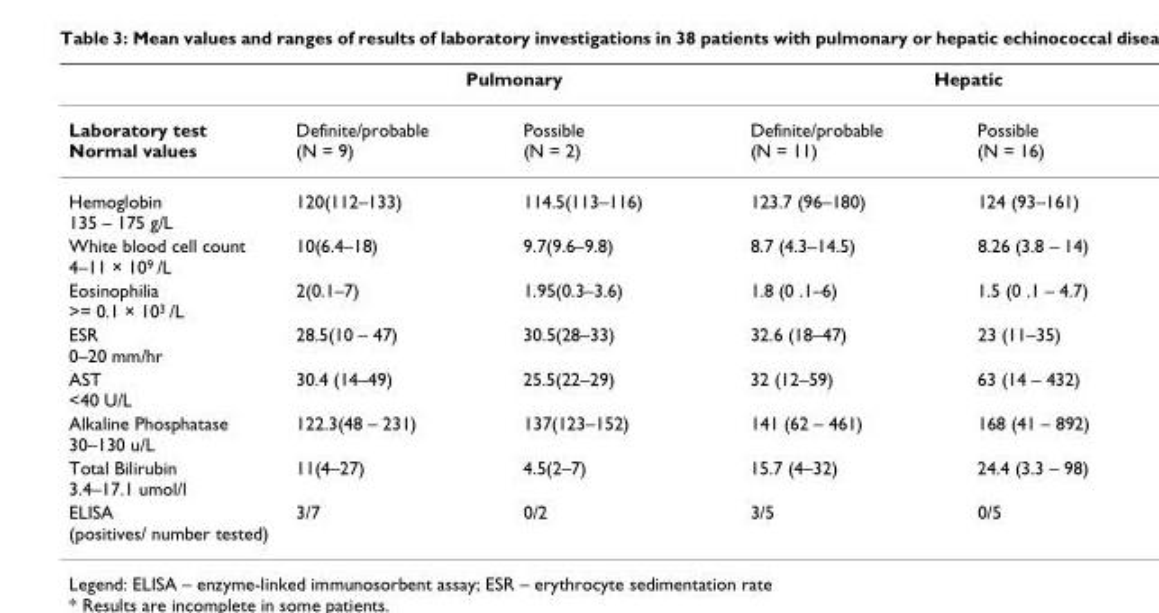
<table><thead><tr><td rowspan="2">Laboratory test Normal values</td><td colspan="2">Pulmonary</td><td colspan="2">Hepatic</td></tr><tr><td>Definite/probable (N = 9)</td><td>Possible (N = 2)</td><td>Definite/probable (N = 11)</td><td>Possible (N = 16)</td></tr></thead><tbody><tr><td>Hemoglobin 135 – 175 g/L</td><td>120(112–133)</td><td>114.5(113–116)</td><td>123.7 (96–180)</td><td>124 (93–161)</td></tr><tr><td>White blood cell count 4–11 × 10<sup>9</sup> /L</td><td>10(6.4–18)</td><td>9.7(9.6–9.8)</td><td>8.7 (4.3–14.5)</td><td>8.26 (3.8 – 14)</td></tr><tr><td>Eosinophilia &gt;= 0.1 × 10<sup>3</sup> /L</td><td>2(0.1–7)</td><td>1.95(0.3–3.6)</td><td>1.8 (0 .1–6)</td><td>1.5 (0 .1 – 4.7)</td></tr><tr><td>ESR 0–20 mm/hr</td><td>28.5(10 – 47)</td><td>30.5(28–33)</td><td>32.6 (18–47)</td><td>23 (11–35)</td></tr><tr><td>AST &lt;40 U/L</td><td>30.4 (14–49)</td><td>25.5(22–29)</td><td>32 (12–59)</td><td>63 (14 – 432)</td></tr><tr><td>Alkaline Phosphatase 30–130 u/L</td><td>122.3(48 – 231)</td><td>137(123–152)</td><td>141 (62 – 461)</td><td>168 (41 – 892)</td></tr><tr><td>Total Bilirubin 3.4–17.1 umol/l</td><td>11(4–27)</td><td>4.5(2–7)</td><td>15.7 (4–32)</td><td>24.4 (3.3 – 98)</td></tr><tr><td>ELISA (positives/ number tested)</td><td>3/7</td><td>0/2</td><td>3/5</td><td>0/5</td></tr></tbody></table>